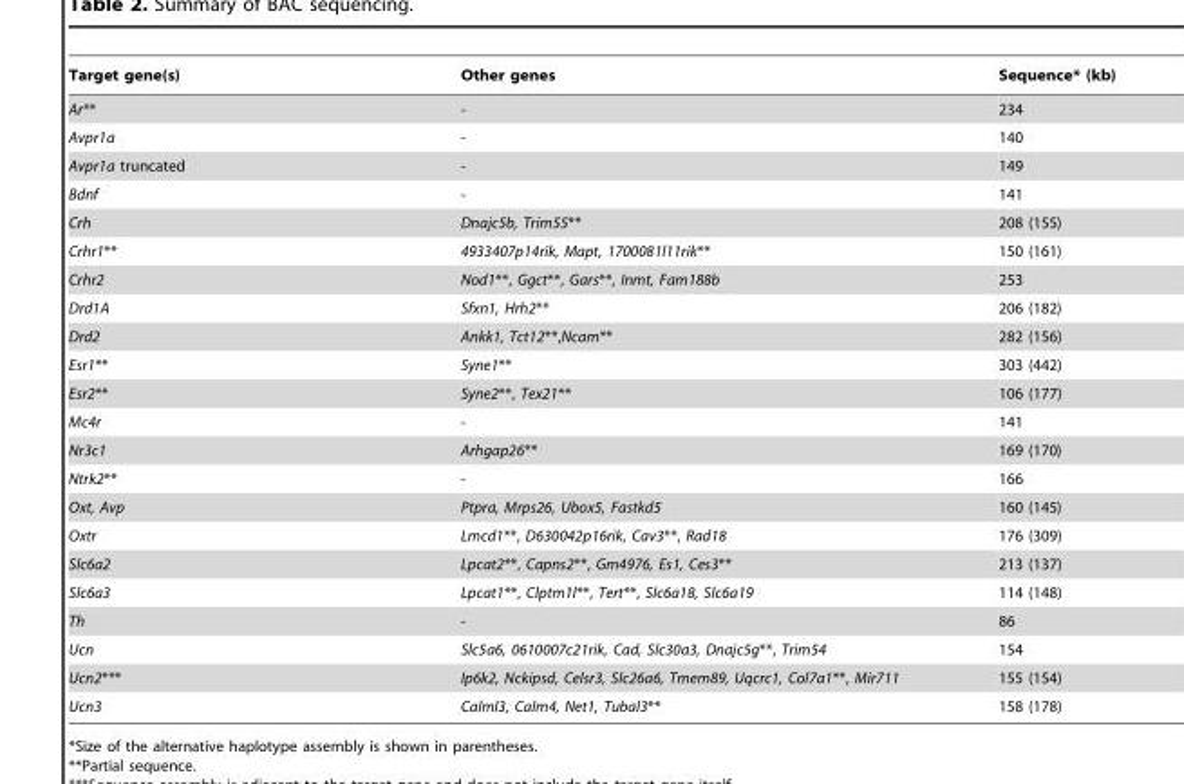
<table><thead><tr><td>Target gene(s)</td><td>Other genes</td><td>Sequence* (kb)</td></tr></thead><tbody><tr><td>Ar**</td><td>-</td><td>234</td></tr><tr><td>Avpr1a</td><td>-</td><td>140</td></tr><tr><td>Avpr1a truncated</td><td>-</td><td>149</td></tr><tr><td>Bdnf</td><td>-</td><td>141</td></tr><tr><td>Crh</td><td>Dnajc5b, Trim55**</td><td>208 (155)</td></tr><tr><td>Crhr1**</td><td>4933407p14rik, Mapt, 1700081l11rik**</td><td>150 (161)</td></tr><tr><td>Crhr2</td><td>Nod1**, Ggct**, Gars**, Inmt, Fam188b</td><td>253</td></tr><tr><td>Drd1A</td><td>Sfxn1, Hrh2**</td><td>206 (182)</td></tr><tr><td>Drd2</td><td>Ankk1, Tct12**,Ncam**</td><td>282 (156)</td></tr><tr><td>Esr1**</td><td>Syne1**</td><td>303 (442)</td></tr><tr><td>Esr2**</td><td>Syne2**, Tex21**</td><td>106 (177)</td></tr><tr><td>Mc4r</td><td>-</td><td>141</td></tr><tr><td>Nr3c1</td><td>Arhgap26**</td><td>169 (170)</td></tr><tr><td>Ntrk2**</td><td>-</td><td>166</td></tr><tr><td>Oxt, Avp</td><td>Ptpra, Mrps26, Ubox5, Fastkd5</td><td>160 (145)</td></tr><tr><td>Oxtr</td><td>Lmcd1**, D630042p16rik, Cav3**, Rad18</td><td>176 (309)</td></tr><tr><td>Slc6a2</td><td>Lpcat2**, Capns2**, Gm4976, Es1, Ces3**</td><td>213 (137)</td></tr><tr><td>Slc6a3</td><td>Lpcat1**, Clptm1l**, Tert**, Slc6a18, Slc6a19</td><td>114 (148)</td></tr><tr><td>Th</td><td>-</td><td>86</td></tr><tr><td>Ucn</td><td>Slc5a6, 0610007c21rik, Cad, Slc30a3, Dnajc5g**, Trim54</td><td>154</td></tr><tr><td>Ucn2***</td><td>Ip6k2, Nckipsd, Celsr3, Slc26a6, Tmem89, Uqcrc1, Col7a1**, Mir711</td><td>155 (154)</td></tr><tr><td>Ucn3</td><td>Calml3, Calm4, Net1, Tubal3**</td><td>158 (178)</td></tr></tbody></table>